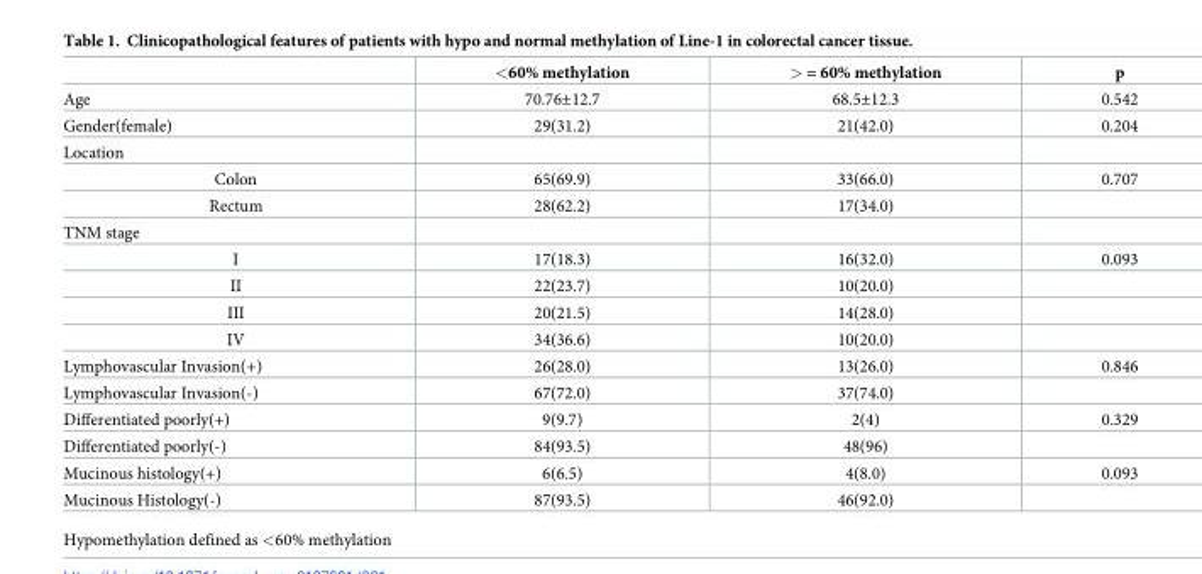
<table><thead><tr><td></td><td>&lt;60% methylation</td><td>&gt; = 60% methylation</td><td>p</td></tr></thead><tbody><tr><td>Age</td><td>70.76±12.7</td><td>68.5±12.3</td><td>0.542</td></tr><tr><td>Gender(female)</td><td>29(31.2)</td><td>21(42.0)</td><td>0.204</td></tr><tr><td colspan="4">Location</td></tr><tr><td>Colon</td><td>65(69.9)</td><td>33(66.0)</td><td>0.707</td></tr><tr><td>Rectum</td><td>28(62.2)</td><td>17(34.0)</td><td></td></tr><tr><td colspan="4">TNM stage</td></tr><tr><td>I</td><td>17(18.3)</td><td>16(32.0)</td><td>0.093</td></tr><tr><td>II</td><td>22(23.7)</td><td>10(20.0)</td><td></td></tr><tr><td>III</td><td>20(21.5)</td><td>14(28.0)</td><td></td></tr><tr><td>IV</td><td>34(36.6)</td><td>10(20.0)</td><td></td></tr><tr><td>Lymphovascular Invasion(+)</td><td>26(28.0)</td><td>13(26.0)</td><td>0.846</td></tr><tr><td>Lymphovascular Invasion(-)</td><td>67(72.0)</td><td>37(74.0)</td><td></td></tr><tr><td>Differentiated poorly(+)</td><td>9(9.7)</td><td>2(4)</td><td>0.329</td></tr><tr><td>Differentiated poorly(-)</td><td>84(93.5)</td><td>48(96)</td><td></td></tr><tr><td>Mucinous histology(+)</td><td>6(6.5)</td><td>4(8.0)</td><td>0.093</td></tr><tr><td>Mucinous Histology(-)</td><td>87(93.5)</td><td>46(92.0)</td><td></td></tr></tbody></table>